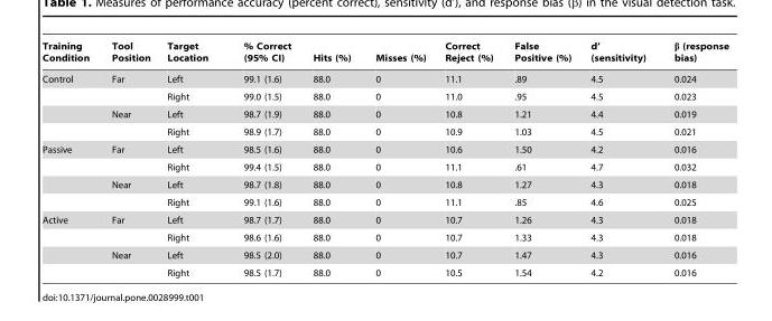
<table><thead><tr><td>Training Condition</td><td>Tool Position</td><td>Target Location</td><td>% Correct (95% CI)</td><td>Hits (%)</td><td>Misses (%)</td><td>Correct Reject (%)</td><td>False Positive (%)</td><td>d’ (sensitivity)</td><td>β (response bias)</td></tr></thead><tbody><tr><td rowspan="4">Control</td><td>Far</td><td>Left</td><td>99.1 (1.6)</td><td>88.0</td><td>0</td><td>11.1</td><td>.89</td><td>4.5</td><td>0.024</td></tr><tr><td></td><td>Right</td><td>99.0 (1.5)</td><td>88.0</td><td>0</td><td>11.0</td><td>.95</td><td>4.5</td><td>0.023</td></tr><tr><td>Near</td><td>Left</td><td>98.7 (1.9)</td><td>88.0</td><td>0</td><td>10.8</td><td>1.21</td><td>4.4</td><td>0.019</td></tr><tr><td></td><td>Right</td><td>98.9 (1.7)</td><td>88.0</td><td>0</td><td>10.9</td><td>1.03</td><td>4.5</td><td>0.021</td></tr><tr><td rowspan="4">Passive</td><td>Far</td><td>Left</td><td>98.5 (1.6)</td><td>88.0</td><td>0</td><td>10.6</td><td>1.50</td><td>4.2</td><td>0.016</td></tr><tr><td></td><td>Right</td><td>99.4 (1.5)</td><td>88.0</td><td>0</td><td>11.1</td><td>.61</td><td>4.7</td><td>0.032</td></tr><tr><td>Near</td><td>Left</td><td>98.7 (1.8)</td><td>88.0</td><td>0</td><td>10.8</td><td>1.27</td><td>4.3</td><td>0.018</td></tr><tr><td></td><td>Right</td><td>99.1 (1.6)</td><td>88.0</td><td>0</td><td>11.1</td><td>.85</td><td>4.6</td><td>0.025</td></tr><tr><td rowspan="4">Active</td><td>Far</td><td>Left</td><td>98.7 (1.7)</td><td>88.0</td><td>0</td><td>10.7</td><td>1.26</td><td>4.3</td><td>0.018</td></tr><tr><td></td><td>Right</td><td>98.6 (1.6)</td><td>88.0</td><td>0</td><td>10.7</td><td>1.33</td><td>4.3</td><td>0.018</td></tr><tr><td>Near</td><td>Left</td><td>98.5 (2.0)</td><td>88.0</td><td>0</td><td>10.7</td><td>1.47</td><td>4.3</td><td>0.016</td></tr><tr><td></td><td>Right</td><td>98.5 (1.7)</td><td>88.0</td><td>0</td><td>10.5</td><td>1.54</td><td>4.2</td><td>0.016</td></tr></tbody></table>